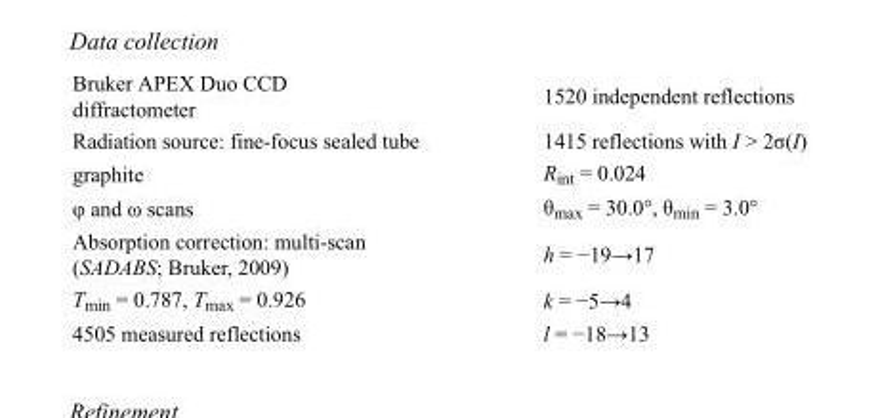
<table><tbody><tr><td>Bruker APEX Duo CCD diffractometer</td><td>1520 independent reflections</td></tr><tr><td>Radiation source: fine-focus sealed tube</td><td>1415 reflections with I &gt; 2σ(I)</td></tr><tr><td>graphite</td><td>R<sub>int</sub> = 0.024</td></tr><tr><td>φ and ω scans</td><td>θ<sub>max</sub> = 30.0°, θ<sub>min</sub> = 3.0°</td></tr><tr><td>Absorption correction: multi-scan (SADABS; Bruker, 2009)</td><td>h = −19→17</td></tr><tr><td>T<sub>min</sub> = 0.787, T<sub>max</sub> = 0.926</td><td>k = −5→4</td></tr><tr><td>4505 measured reflections</td><td>l = −18→13</td></tr></tbody></table>